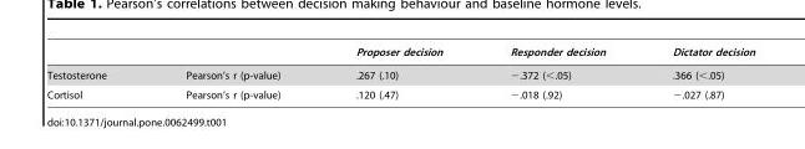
<table><thead><tr><td></td><td></td><td>Proposer decision</td><td>Responder decision</td><td>Dictator decision</td></tr></thead><tbody><tr><td>Testosterone</td><td>Pearson’s r (p-value)</td><td>.267 (.10)</td><td>−.372 (&lt;.05)</td><td>.366 (&lt;.05)</td></tr><tr><td>Cortisol</td><td>Pearson’s r (p-value)</td><td>.120 (.47)</td><td>−.018 (.92)</td><td>−.027 (.87)</td></tr></tbody></table>